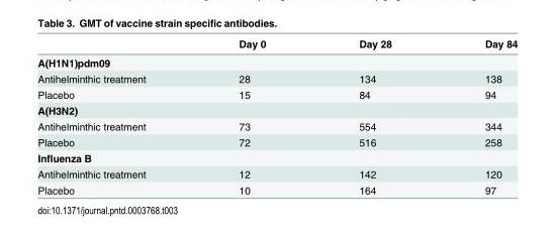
<table><thead><tr><td></td><td>Day 0</td><td>Day 28</td><td>Day 84</td></tr></thead><tbody><tr><td colspan="4">A(H1N1)pdm09</td></tr><tr><td>Antihelminthic treatment</td><td>28</td><td>134</td><td>138</td></tr><tr><td>Placebo</td><td>15</td><td>84</td><td>94</td></tr><tr><td colspan="4">A(H3N2)</td></tr><tr><td>Antihelminthic treatment</td><td>73</td><td>554</td><td>344</td></tr><tr><td>Placebo</td><td>72</td><td>516</td><td>258</td></tr><tr><td colspan="4">Influenza B</td></tr><tr><td>Antihelminthic treatment</td><td>12</td><td>142</td><td>120</td></tr><tr><td>Placebo</td><td>10</td><td>164</td><td>97</td></tr></tbody></table>